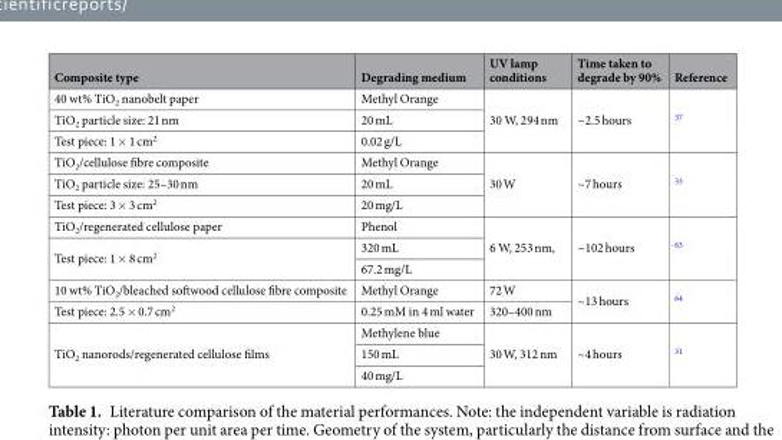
<table><thead><tr><td>Composite type</td><td>Degrading medium</td><td>UV lamp conditions</td><td>Time taken to degrade by 90%</td><td>Reference</td></tr></thead><tbody><tr><td>40 wt% TiO<sub>2</sub> nanobelt paper</td><td>Methyl Orange</td><td rowspan="3">30 W, 294 nm</td><td rowspan="3">~2.5 hours</td><td rowspan="3"><sup>37</sup></td></tr><tr><td>TiO<sub>2</sub> particle size: 21 nm</td><td>20 mL</td></tr><tr><td>Test piece: 1 × 1 cm<sup>2</sup></td><td>0.02 g/L</td></tr><tr><td>TiO<sub>2</sub>/cellulose fibre composite</td><td>Methyl Orange</td><td rowspan="3">30 W</td><td rowspan="3">~7 hours</td><td rowspan="3"><sup>33</sup></td></tr><tr><td>TiO<sub>2</sub> particle size: 25–30 nm</td><td>20 mL</td></tr><tr><td>Test piece: 3 × 3 cm<sup>2</sup></td><td>20 mg/L</td></tr><tr><td>TiO<sub>2</sub>/regenerated cellulose paper</td><td>Phenol</td><td rowspan="3">6 W, 253 nm,</td><td rowspan="3">~102 hours</td><td rowspan="3"><sup>63</sup></td></tr><tr><td rowspan="2">Test piece: 1 × 8 cm<sup>2</sup></td><td>320 mL</td></tr><tr><td>67.2 mg/L</td></tr><tr><td>10 wt% TiO<sub>2</sub>/bleached softwood cellulose fibre composite</td><td>Methyl Orange</td><td>72 W</td><td rowspan="2">~13 hours</td><td rowspan="2"><sup>64</sup></td></tr><tr><td>Test piece: 2.5 × 0.7 cm<sup>2</sup></td><td>0.25 mM in 4 ml water</td><td>320–400 nm</td></tr><tr><td rowspan="3">TiO<sub>2</sub> nanorods/regenerated cellulose films</td><td>Methylene blue</td><td rowspan="3">30 W, 312 nm</td><td rowspan="3">~4 hours</td><td rowspan="3"><sup>31</sup></td></tr><tr><td>150 mL</td></tr><tr><td>40 mg/L</td></tr></tbody></table>